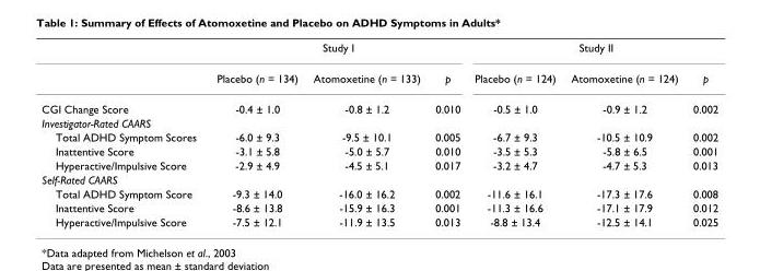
<table><thead><tr><td rowspan="2"></td><td colspan="3">Study I</td><td colspan="3">Study II</td></tr><tr><td>Placebo (n = 134)</td><td>Atomoxetine (n = 133)</td><td>p</td><td>Placebo (n = 124)</td><td>Atomoxetine (n = 124)</td><td>p</td></tr></thead><tbody><tr><td>CGI Change Score</td><td>-0.4 ± 1.0</td><td>-0.8 ± 1.2</td><td>0.010</td><td>-0.5 ± 1.0</td><td>-0.9 ± 1.2</td><td>0.002</td></tr><tr><td colspan="7">Investigator-Rated CAARS</td></tr><tr><td>Total ADHD Symptom Scores</td><td>-6.0 ± 9.3</td><td>-9.5 ± 10.1</td><td>0.005</td><td>-6.7 ± 9.3</td><td>-10.5 ± 10.9</td><td>0.002</td></tr><tr><td>Inattentive Score</td><td>-3.1 ± 5.8</td><td>-5.0 ± 5.7</td><td>0.010</td><td>-3.5 ± 5.3</td><td>-5.8 ± 6.5</td><td>0.001</td></tr><tr><td>Hyperactive/Impulsive Score</td><td>-2.9 ± 4.9</td><td>-4.5 ± 5.1</td><td>0.017</td><td>-3.2 ± 4.7</td><td>-4.7 ± 5.3</td><td>0.013</td></tr><tr><td colspan="7">Self-Rated CAARS</td></tr><tr><td>Total ADHD Symptom Score</td><td>-9.3 ± 14.0</td><td>-16.0 ± 16.2</td><td>0.002</td><td>-11.6 ± 16.1</td><td>-17.3 ± 17.6</td><td>0.008</td></tr><tr><td>Inattentive Score</td><td>-8.6 ± 13.8</td><td>-15.9 ± 16.3</td><td>0.001</td><td>-11.3 ± 16.6</td><td>-17.1 ± 17.9</td><td>0.012</td></tr><tr><td>Hyperactive/Impulsive Score</td><td>-7.5 ± 12.1</td><td>-11.9 ± 13.5</td><td>0.013</td><td>-8.8 ± 13.4</td><td>-12.5 ± 14.1</td><td>0.025</td></tr></tbody></table>